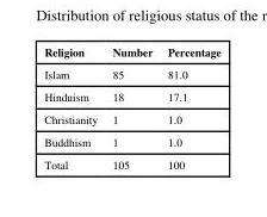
<table><thead><tr><td>Religion</td><td>Number</td><td>Percentage</td></tr></thead><tbody><tr><td>Islam</td><td>85</td><td>81.0</td></tr><tr><td>Hinduism</td><td>18</td><td>17.1</td></tr><tr><td>Christianity</td><td>1</td><td>1.0</td></tr><tr><td>Buddhism</td><td>1</td><td>1.0</td></tr><tr><td>Total</td><td>105</td><td>100</td></tr></tbody></table>